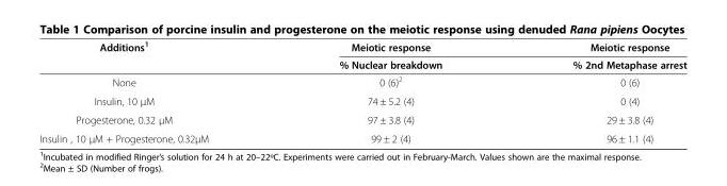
<table><thead><tr><td rowspan="2">Additions<sup>1</sup></td><td rowspan="2">Meiotic response % Nuclear breakdown</td><td rowspan="2">Meiotic response % 2nd Metaphase arrest</td></tr><tr></tr></thead><tbody><tr><td>None</td><td>0 (6)<sup>2</sup></td><td>0 (6)</td></tr><tr><td>Insulin, 10 μM</td><td>74 ± 5.2 (4)</td><td>0 (4)</td></tr><tr><td>Progesterone, 0.32 μM</td><td>97 ± 3.8 (4)</td><td>29 ± 3.8 (4)</td></tr><tr><td>Insulin , 10 μM + Progesterone, 0.32μM</td><td>99 ± 2 (4)</td><td>96 ± 1.1 (4)</td></tr></tbody></table>